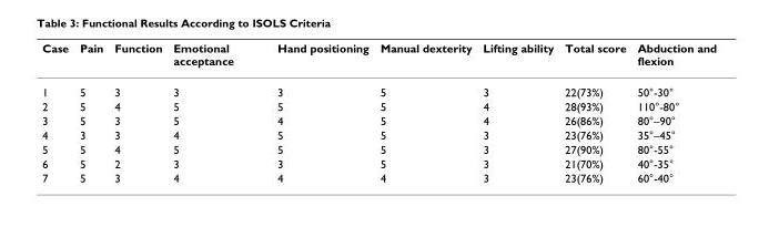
<table><thead><tr><td>Case</td><td>Pain</td><td>Function</td><td>Emotional acceptance</td><td>Hand positioning</td><td>Manual dexterity</td><td>Lifting ability</td><td>Total score</td><td>Abduction and flexion</td></tr></thead><tbody><tr><td>1</td><td>5</td><td>3</td><td>3</td><td>3</td><td>5</td><td>3</td><td>22(73%)</td><td>50°-30°</td></tr><tr><td>2</td><td>5</td><td>4</td><td>5</td><td>5</td><td>5</td><td>4</td><td>28(93%)</td><td>110°-80°</td></tr><tr><td>3</td><td>5</td><td>3</td><td>5</td><td>4</td><td>5</td><td>4</td><td>26(86%)</td><td>80°–90°</td></tr><tr><td>4</td><td>3</td><td>3</td><td>4</td><td>5</td><td>5</td><td>3</td><td>23(76%)</td><td>35°–45°</td></tr><tr><td>5</td><td>5</td><td>4</td><td>5</td><td>5</td><td>5</td><td>3</td><td>27(90%)</td><td>80°-55°</td></tr><tr><td>6</td><td>5</td><td>2</td><td>3</td><td>3</td><td>5</td><td>3</td><td>21(70%)</td><td>40°-35°</td></tr><tr><td>7</td><td>5</td><td>3</td><td>4</td><td>4</td><td>4</td><td>3</td><td>23(76%)</td><td>60°-40°</td></tr></tbody></table>